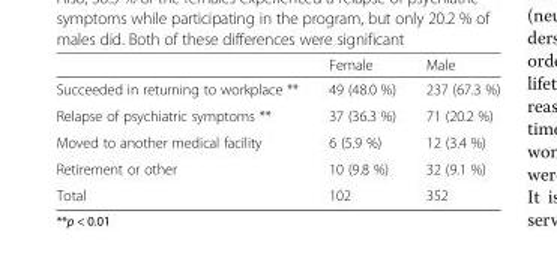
<table><thead><tr><td></td><td>Female</td><td>Male</td></tr></thead><tbody><tr><td>Succeeded in returning to workplace **</td><td>49 (48.0 %)</td><td>237 (67.3 %)</td></tr><tr><td>Relapse of psychiatric symptoms **</td><td>37 (36.3 %)</td><td>71 (20.2 %)</td></tr><tr><td>Moved to another medical facility</td><td>6 (5.9 %)</td><td>12 (3.4 %)</td></tr><tr><td>Retirement or other</td><td>10 (9.8 %)</td><td>32 (9.1 %)</td></tr><tr><td>Total</td><td>102</td><td>352</td></tr></tbody></table>